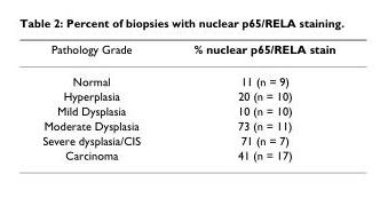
<table><thead><tr><td>Pathology Grade</td><td>% nuclear p65/RELA stain</td></tr></thead><tbody><tr><td>Normal</td><td>11 (n = 9)</td></tr><tr><td>Hyperplasia</td><td>20 (n = 10)</td></tr><tr><td>Mild Dysplasia</td><td>10 (n = 10)</td></tr><tr><td>Moderate Dysplasia</td><td>73 (n = 11)</td></tr><tr><td>Severe dysplasia/CIS</td><td>71 (n = 7)</td></tr><tr><td>Carcinoma</td><td>41 (n = 17)</td></tr></tbody></table>